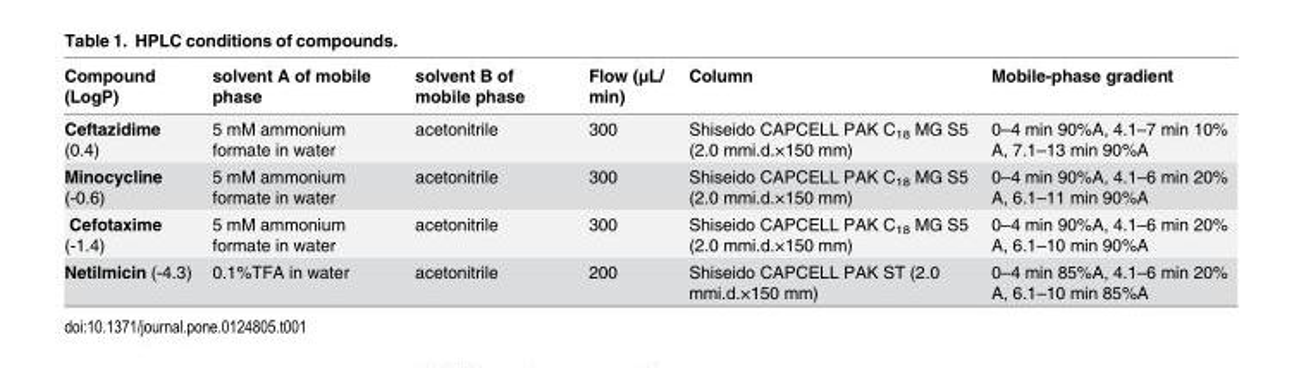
<table><thead><tr><td>Compound (LogP)</td><td>solvent A of mobile phase</td><td>solvent B of mobile phase</td><td>Flow (μL/ min)</td><td>Column</td><td>Mobile-phase gradient</td></tr></thead><tbody><tr><td>Ceftazidime (0.4)</td><td>5 mM ammonium formate in water</td><td>acetonitrile</td><td>300</td><td>Shiseido CAPCELL PAK C<sub>18</sub> MG S5 (2.0 mmi.d.×150 mm)</td><td>0–4 min 90%A, 4.1–7 min 10% A, 7.1–13 min 90%A</td></tr><tr><td>Minocycline (-0.6)</td><td>5 mM ammonium formate in water</td><td>acetonitrile</td><td>300</td><td>Shiseido CAPCELL PAK C<sub>18</sub> MG S5 (2.0 mmi.d.×150 mm)</td><td>0–4 min 90%A, 4.1–6 min 20% A, 6.1–11 min 90%A</td></tr><tr><td>Cefotaxime (-1.4)</td><td>5 mM ammonium formate in water</td><td>acetonitrile</td><td>300</td><td>Shiseido CAPCELL PAK C<sub>18</sub> MG S5 (2.0 mmi.d.×150 mm)</td><td>0–4 min 90%A, 4.1–6 min 20% A, 6.1–10 min 90%A</td></tr><tr><td>Netilmicin (-4.3)</td><td>0.1%TFA in water</td><td>acetonitrile</td><td>200</td><td>Shiseido CAPCELL PAK ST (2.0 mmi.d.×150 mm)</td><td>0–4 min 85%A, 4.1–6 min 20% A, 6.1–10 min 85%A</td></tr></tbody></table>